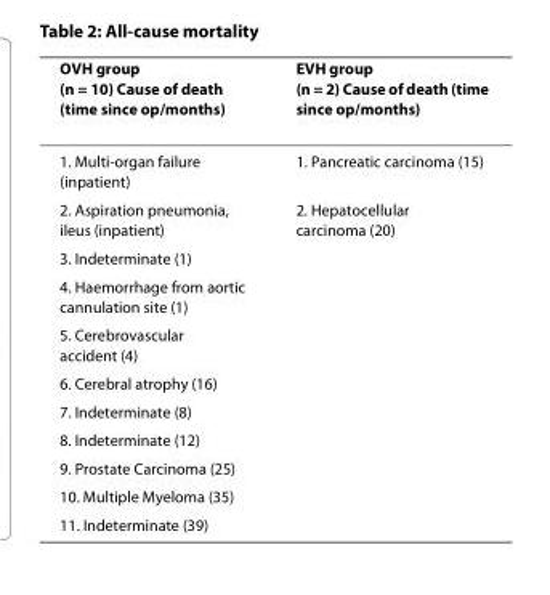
<table><thead><tr><td>OVH group (n = 10) Cause of death (time since op/months)</td><td>EVH group (n = 2) Cause of death (time since op/months)</td></tr></thead><tbody><tr><td>1. Multi-organ failure (inpatient)</td><td>1. Pancreatic carcinoma (15)</td></tr><tr><td>2. Aspiration pneumonia, ileus (inpatient)</td><td>2. Hepatocellular carcinoma (20)</td></tr><tr><td colspan="2">3. Indeterminate (1)</td></tr><tr><td colspan="2">4. Haemorrhage from aortic cannulation site (1)</td></tr><tr><td colspan="2">5. Cerebrovascular accident (4)</td></tr><tr><td colspan="2">6. Cerebral atrophy (16)</td></tr><tr><td colspan="2">7. Indeterminate (8)</td></tr><tr><td colspan="2">8. Indeterminate (12)</td></tr><tr><td colspan="2">9. Prostate Carcinoma (25)</td></tr><tr><td colspan="2">10. Multiple Myeloma (35)</td></tr><tr><td>11. Indeterminate (39)</td><td></td></tr></tbody></table>